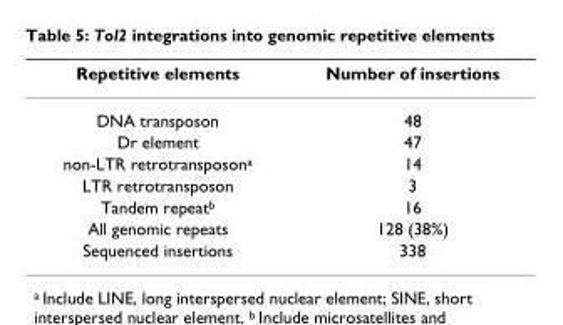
<table><thead><tr><td>Repetitive elements</td><td>Number of insertions</td></tr></thead><tbody><tr><td>DNA transposon</td><td>48</td></tr><tr><td>Dr element</td><td>47</td></tr><tr><td>non-LTR retrotransposon<sup>a</sup></td><td>14</td></tr><tr><td>LTR retrotransposon</td><td>3</td></tr><tr><td>Tandem repeat<sup>b</sup></td><td>16</td></tr><tr><td>All genomic repeats</td><td>128 (38%)</td></tr><tr><td>Sequenced insertions</td><td>338</td></tr></tbody></table>